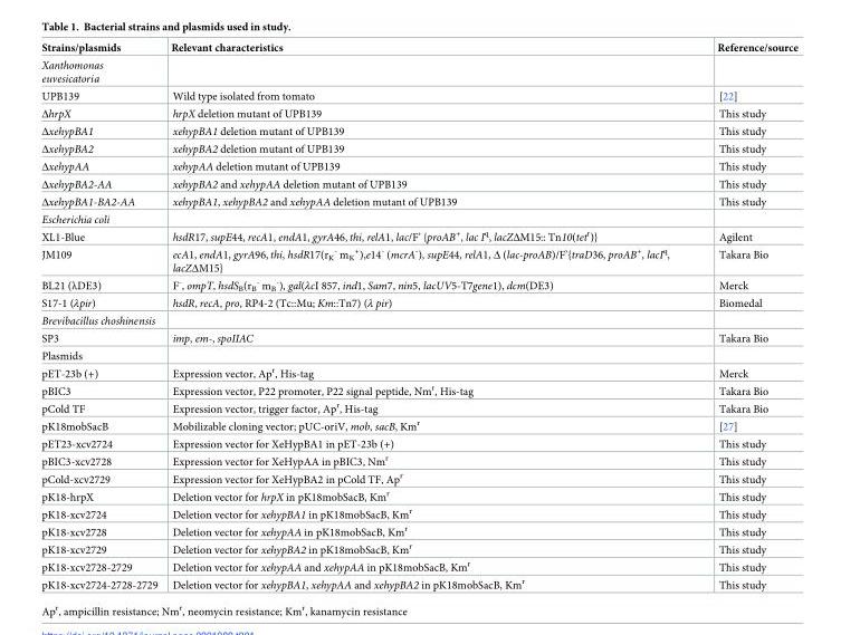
<table><thead><tr><td>Strains/plasmids</td><td>Relevant characteristics</td><td>Reference/source</td></tr></thead><tbody><tr><td colspan="3">Xanthomonas euvesicatoria</td></tr><tr><td>UPB139</td><td>Wild type isolated from tomato</td><td>[22]</td></tr><tr><td>ΔhrpX</td><td>hrpX deletion mutant of UPB139</td><td>This study</td></tr><tr><td>ΔxehypBA1</td><td>xehypBA1 deletion mutant of UPB139</td><td>This study</td></tr><tr><td>ΔxehypBA2</td><td>xehypBA2 deletion mutant of UPB139</td><td>This study</td></tr><tr><td>ΔxehypAA</td><td>xehypAA deletion mutant of UPB139</td><td>This study</td></tr><tr><td>ΔxehypBA2-AA</td><td>xehypBA2 and xehypAA deletion mutant of UPB139</td><td>This study</td></tr><tr><td>ΔxehypBA1-BA2-AA</td><td>xehypBA1, xehypBA2 and xehypAA deletion mutant of UPB139</td><td>This study</td></tr><tr><td colspan="3">Escherichia coli</td></tr><tr><td>XL1-Blue</td><td>hsdR17, supE44, recA1, endA1, gyrA46, thi, relA1, lac/F’ {proAB<sup>+</sup>, lac I<sup>q</sup>, lacZΔM15:: Tn10(tet<sup>r</sup>)}</td><td>Agilent</td></tr><tr><td>JM109</td><td>ecA1, endA1, gyrA96, thi, hsdR17(r<sub>K</sub> <sup>-</sup> m<sub>K</sub> <sup>+</sup>),e14<sup>-</sup> (mcrA<sup>-</sup>), supE44, relA1, Δ (lac-proAB)/F’{traD36, proAB<sup>+</sup>, lacI<sup>q</sup>, lacZΔM15}</td><td>Takara Bio</td></tr><tr><td>BL21 (λDE3)</td><td>F<sup>-</sup>, ompT, hsdS<sub>B</sub>(r<sub>B</sub> <sup>-</sup> m<sub>B</sub> <sup>-</sup>), gal(λcI 857, ind1, Sam7, nin5, lacUV5-T7gene1), dcm(DE3)</td><td>Merck</td></tr><tr><td>S17-1 (λpir)</td><td>hsdR, recA, pro, RP4-2 (Tc::Mu; Km::Tn7) (λ pir)</td><td>Biomedal</td></tr><tr><td colspan="3">Brevibacillus choshinensis</td></tr><tr><td>SP3</td><td>imp, em-, spoIIAC</td><td>Takara Bio</td></tr><tr><td colspan="3">Plasmids</td></tr><tr><td>pET-23b (+)</td><td>Expression vector, Ap<sup>r</sup>, His-tag</td><td>Merck</td></tr><tr><td>pBIC3</td><td>Expression vector, P22 promoter, P22 signal peptide, Nm<sup>r</sup>, His-tag</td><td>Takara Bio</td></tr><tr><td>pCold TF</td><td>Expression vector, trigger factor, Ap<sup>r</sup>, His-tag</td><td>Takara Bio</td></tr><tr><td>pK18mobSacB</td><td>Mobilizable cloning vector; pUC-oriV, mob, sacB, Km<sup>r</sup></td><td>[27]</td></tr><tr><td>pET23-xcv2724</td><td>Expression vector for XeHypBA1 in pET-23b (+)</td><td>This study</td></tr><tr><td>pBIC3-xcv2728</td><td>Expression vector for XeHypAA in pBIC3, Nm<sup>r</sup></td><td>This study</td></tr><tr><td>pCold-xcv2729</td><td>Expression vector for XeHypBA2 in pCold TF, Ap<sup>r</sup></td><td>This study</td></tr><tr><td>pK18-hrpX</td><td>Deletion vector for hrpX in pK18mobSacB, Km<sup>r</sup></td><td>This study</td></tr><tr><td>pK18-xcv2724</td><td>Deletion vector for xehypBA1 in pK18mobSacB, Km<sup>r</sup></td><td>This study</td></tr><tr><td>pK18-xcv2728</td><td>Deletion vector for xehypAA in pK18mobSacB, Km<sup>r</sup></td><td>This study</td></tr><tr><td>pK18-xcv2729</td><td>Deletion vector for xehypBA2 in pK18mobSacB, Km<sup>r</sup></td><td>This study</td></tr><tr><td>pK18-xcv2728-2729</td><td>Deletion vector for xehypAA and xehypAA in pK18mobSacB, Km<sup>r</sup></td><td>This study</td></tr><tr><td>pK18-xcv2724-2728-2729</td><td>Deletion vector for xehypBA1, xehypAA and xehypBA2 in pK18mobSacB, Km<sup>r</sup></td><td>This study</td></tr></tbody></table>